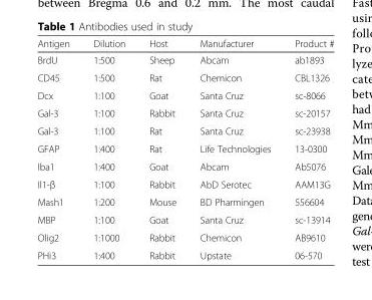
<table><thead><tr><td>Antigen</td><td>Dilution</td><td>Host</td><td>Manufacturer</td><td>Product #</td></tr></thead><tbody><tr><td>BrdU</td><td>1:500</td><td>Sheep</td><td>Abcam</td><td>ab1893</td></tr><tr><td>CD45</td><td>1:500</td><td>Rat</td><td>Chemicon</td><td>CBL1326</td></tr><tr><td>Dcx</td><td>1:100</td><td>Goat</td><td>Santa Cruz</td><td>sc-8066</td></tr><tr><td>Gal-3</td><td>1:100</td><td>Rabbit</td><td>Santa Cruz</td><td>sc-20157</td></tr><tr><td>Gal-3</td><td>1:100</td><td>Rat</td><td>Santa Cruz</td><td>sc-23938</td></tr><tr><td>GFAP</td><td>1:400</td><td>Rat</td><td>Life Technologies</td><td>13-0300</td></tr><tr><td>Iba1</td><td>1:400</td><td>Goat</td><td>Abcam</td><td>Ab5076</td></tr><tr><td>Il1-β</td><td>1:100</td><td>Rabbit</td><td>AbD Serotec</td><td>AAM13G</td></tr><tr><td>Mash1</td><td>1:200</td><td>Mouse</td><td>BD Pharmingen</td><td>556604</td></tr><tr><td>MBP</td><td>1:100</td><td>Goat</td><td>Santa Cruz</td><td>sc-13914</td></tr><tr><td>Olig2</td><td>1:1000</td><td>Rabbit</td><td>Chemicon</td><td>AB9610</td></tr><tr><td>PHi3</td><td>1:400</td><td>Rabbit</td><td>Upstate</td><td>06-570</td></tr></tbody></table>